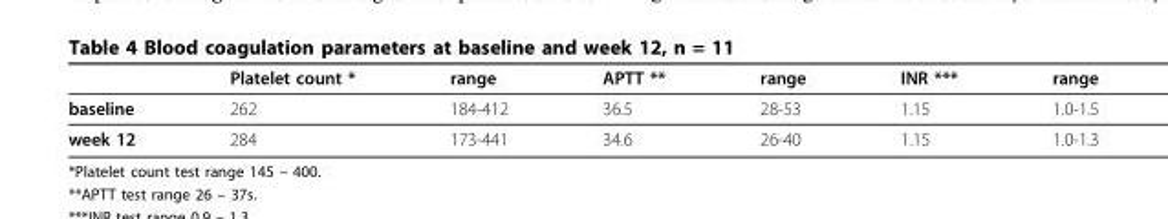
<table><thead><tr><td></td><td>Platelet count *</td><td>range</td><td>APTT **</td><td>range</td><td>INR ***</td><td>range</td></tr></thead><tbody><tr><td>baseline</td><td>262</td><td>184-412</td><td>36.5</td><td>28-53</td><td>1.15</td><td>1.0-1.5</td></tr><tr><td>week 12</td><td>284</td><td>173-441</td><td>34.6</td><td>26-40</td><td>1.15</td><td>1.0-1.3</td></tr></tbody></table>